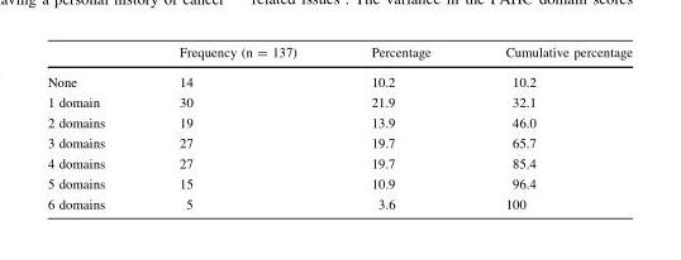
<table><thead><tr><td></td><td>Frequency (n = 137)</td><td>Percentage</td><td>Cumulative percentage</td></tr></thead><tbody><tr><td>None</td><td>14</td><td>10.2</td><td>10.2</td></tr><tr><td>1 domain</td><td>30</td><td>21.9</td><td>32.1</td></tr><tr><td>2 domains</td><td>19</td><td>13.9</td><td>46.0</td></tr><tr><td>3 domains</td><td>27</td><td>19.7</td><td>65.7</td></tr><tr><td>4 domains</td><td>27</td><td>19.7</td><td>85.4</td></tr><tr><td>5 domains</td><td>15</td><td>10.9</td><td>96.4</td></tr><tr><td>6 domains</td><td>5</td><td>3.6</td><td>100</td></tr></tbody></table>